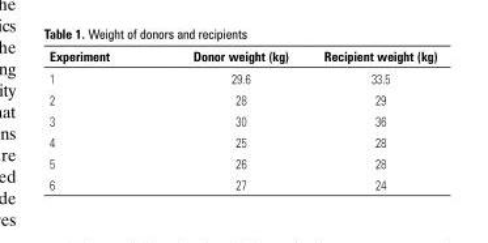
<table><thead><tr><td>Experiment</td><td>Donor weight (kg)</td><td>Recipient weight (kg)</td></tr></thead><tbody><tr><td>1</td><td>29.6</td><td>33.5</td></tr><tr><td>2</td><td>28</td><td>29</td></tr><tr><td>3</td><td>30</td><td>36</td></tr><tr><td>4</td><td>25</td><td>28</td></tr><tr><td>5</td><td>26</td><td>28</td></tr><tr><td>6</td><td>27</td><td>24</td></tr></tbody></table>